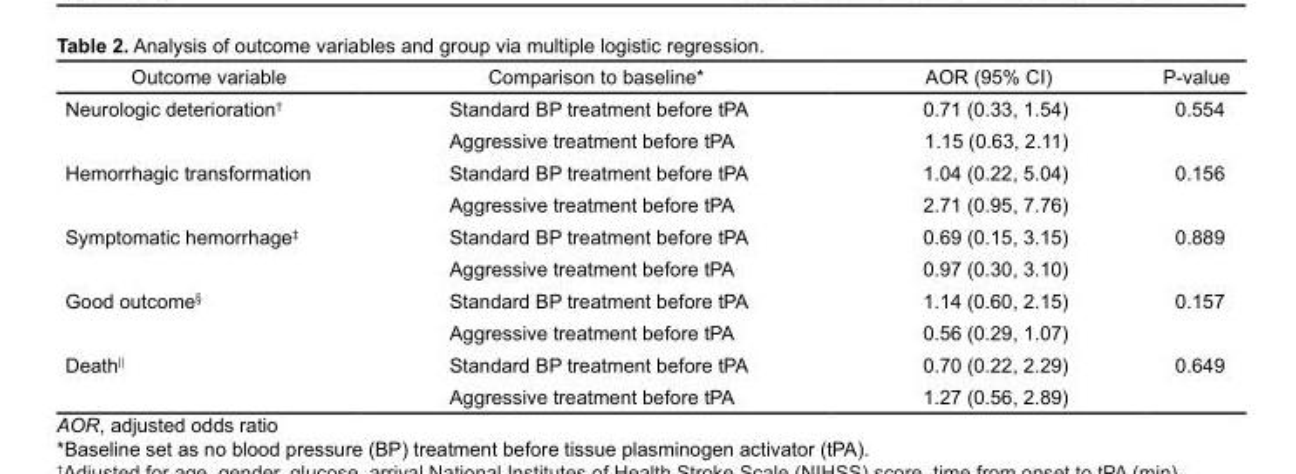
<table><thead><tr><td>Outcome variable</td><td>Comparison to baseline*</td><td>AOR (95% CI)</td><td>P-value</td></tr></thead><tbody><tr><td rowspan="2">Neurologic deterioration†</td><td>Standard BP treatment before tPA</td><td>0.71 (0.33, 1.54)</td><td>0.554</td></tr><tr><td>Aggressive treatment before tPA</td><td>1.15 (0.63, 2.11)</td><td></td></tr><tr><td rowspan="2">Hemorrhagic transformation</td><td>Standard BP treatment before tPA</td><td>1.04 (0.22, 5.04)</td><td>0.156</td></tr><tr><td>Aggressive treatment before tPA</td><td>2.71 (0.95, 7.76)</td><td></td></tr><tr><td rowspan="2">Symptomatic hemorrhage‡</td><td>Standard BP treatment before tPA</td><td>0.69 (0.15, 3.15)</td><td>0.889</td></tr><tr><td>Aggressive treatment before tPA</td><td>0.97 (0.30, 3.10)</td><td></td></tr><tr><td rowspan="2">Good outcome§</td><td>Standard BP treatment before tPA</td><td>1.14 (0.60, 2.15)</td><td>0.157</td></tr><tr><td>Aggressive treatment before tPA</td><td>0.56 (0.29, 1.07)</td><td></td></tr><tr><td rowspan="2">Death||</td><td>Standard BP treatment before tPA</td><td>0.70 (0.22, 2.29)</td><td>0.649</td></tr><tr><td>Aggressive treatment before tPA</td><td>1.27 (0.56, 2.89)</td><td></td></tr></tbody></table>